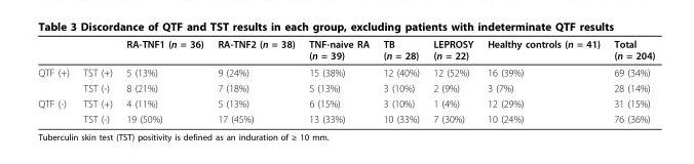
<table><thead><tr><td></td><td></td><td>RA-TNF1 (n = 36)</td><td>RA-TNF2 (n = 38)</td><td>TNF-naive RA (n = 39)</td><td>TB (n = 28)</td><td>LEPROSY (n = 22)</td><td>Healthy controls (n = 41)</td><td>Total (n = 204)</td></tr></thead><tbody><tr><td rowspan="2">QTF (+)</td><td>TST (+)</td><td>5 (13%)</td><td>9 (24%)</td><td>15 (38%)</td><td>12 (40%)</td><td>12 (52%)</td><td>16 (39%)</td><td>69 (34%)</td></tr><tr><td>TST (-)</td><td>8 (21%)</td><td>7 (18%)</td><td>5 (13%)</td><td>3 (10%)</td><td>2 (9%)</td><td>3 (7%)</td><td>28 (14%)</td></tr><tr><td rowspan="2">QTF (-)</td><td>TST (+)</td><td>4 (11%)</td><td>5 (13%)</td><td>6 (15%)</td><td>3 (10%)</td><td>1 (4%)</td><td>12 (29%)</td><td>31 (15%)</td></tr><tr><td>TST (-)</td><td>19 (50%)</td><td>17 (45%)</td><td>13 (33%)</td><td>10 (33%)</td><td>7 (30%)</td><td>10 (24%)</td><td>76 (36%)</td></tr></tbody></table>